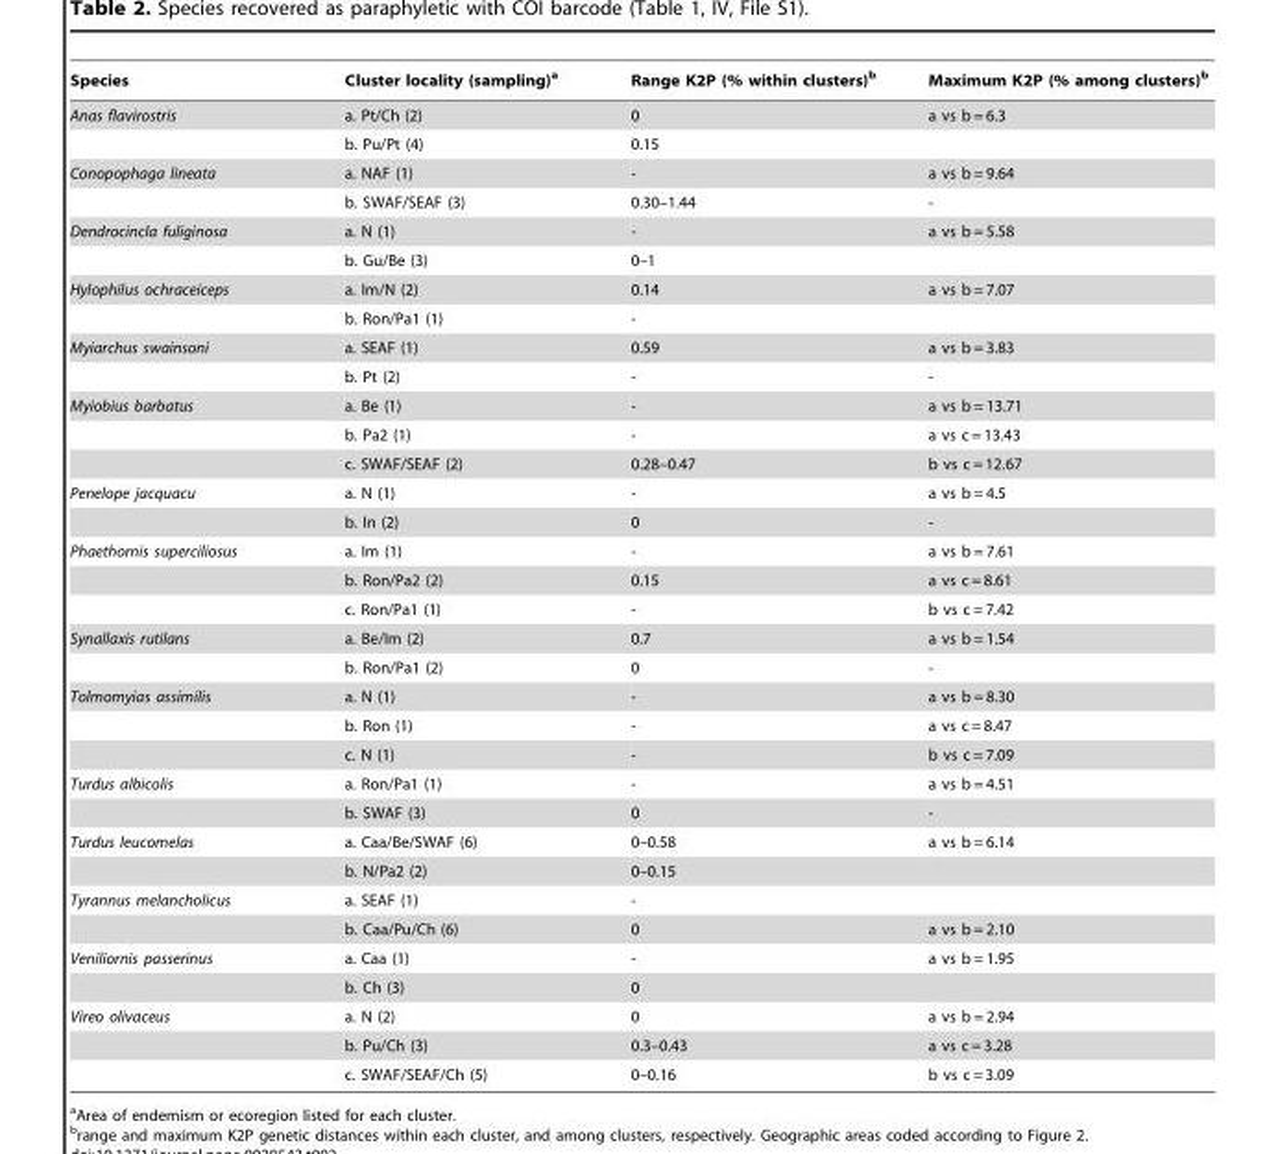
<table><thead><tr><td>Species</td><td>Cluster locality (sampling)<sup>a</sup></td><td>Range K2P (% within clusters)<sup>b</sup></td><td>Maximum K2P (% among clusters)<sup>b</sup></td></tr></thead><tbody><tr><td rowspan="2">Anas flavirostris</td><td>a. Pt/Ch (2)</td><td>0</td><td>a vs b = 6.3</td></tr><tr><td>b. Pu/Pt (4)</td><td>0.15</td><td></td></tr><tr><td rowspan="2">Conopophaga lineata</td><td>a. NAF (1)</td><td>-</td><td>a vs b = 9.64</td></tr><tr><td>b. SWAF/SEAF (3)</td><td>0.30–1.44</td><td>-</td></tr><tr><td rowspan="2">Dendrocincla fuliginosa</td><td>a. N (1)</td><td>-</td><td>a vs b = 5.58</td></tr><tr><td>b. Gu/Be (3)</td><td>0–1</td><td></td></tr><tr><td rowspan="2">Hylophilus ochraceiceps</td><td>a. Im/N (2)</td><td>0.14</td><td>a vs b = 7.07</td></tr><tr><td>b. Ron/Pa1 (1)</td><td>-</td><td></td></tr><tr><td rowspan="2">Myiarchus swainsoni</td><td>a. SEAF (1)</td><td>0.59</td><td>a vs b = 3.83</td></tr><tr><td>b. Pt (2)</td><td>-</td><td>-</td></tr><tr><td rowspan="3">Myiobius barbatus</td><td>a. Be (1)</td><td>-</td><td>a vs b = 13.71</td></tr><tr><td>b. Pa2 (1)</td><td>-</td><td>a vs c = 13.43</td></tr><tr><td>c. SWAF/SEAF (2)</td><td>0.28–0.47</td><td>b vs c = 12.67</td></tr><tr><td rowspan="2">Penelope jacquacu</td><td>a. N (1)</td><td>-</td><td>a vs b = 4.5</td></tr><tr><td>b. In (2)</td><td>0</td><td>-</td></tr><tr><td rowspan="3">Phaethornis superciliosus</td><td>a. Im (1)</td><td>-</td><td>a vs b = 7.61</td></tr><tr><td>b. Ron/Pa2 (2)</td><td>0.15</td><td>a vs c = 8.61</td></tr><tr><td>c. Ron/Pa1 (1)</td><td>-</td><td>b vs c = 7.42</td></tr><tr><td rowspan="2">Synallaxis rutilans</td><td>a. Be/Im (2)</td><td>0.7</td><td>a vs b = 1.54</td></tr><tr><td>b. Ron/Pa1 (2)</td><td>0</td><td>-</td></tr><tr><td rowspan="3">Tolmomyias assimilis</td><td>a. N (1)</td><td>-</td><td>a vs b = 8.30</td></tr><tr><td>b. Ron (1)</td><td>-</td><td>a vs c = 8.47</td></tr><tr><td>c. N (1)</td><td>-</td><td>b vs c = 7.09</td></tr><tr><td rowspan="2">Turdus albicolis</td><td>a. Ron/Pa1 (1)</td><td>-</td><td>a vs b = 4.51</td></tr><tr><td>b. SWAF (3)</td><td>0</td><td>-</td></tr><tr><td rowspan="2">Turdus leucomelas</td><td>a. Caa/Be/SWAF (6)</td><td>0–0.58</td><td>a vs b = 6.14</td></tr><tr><td>b. N/Pa2 (2)</td><td>0–0.15</td><td></td></tr><tr><td rowspan="2">Tyrannus melancholicus</td><td>a. SEAF (1)</td><td>-</td><td></td></tr><tr><td>b. Caa/Pu/Ch (6)</td><td>0</td><td>a vs b = 2.10</td></tr><tr><td rowspan="2">Veniliornis passerinus</td><td>a. Caa (1)</td><td>-</td><td>a vs b = 1.95</td></tr><tr><td>b. Ch (3)</td><td>0</td><td></td></tr><tr><td rowspan="3">Vireo olivaceus</td><td>a. N (2)</td><td>0</td><td>a vs b = 2.94</td></tr><tr><td>b. Pu/Ch (3)</td><td>0.3–0.43</td><td>a vs c = 3.28</td></tr><tr><td>c. SWAF/SEAF/Ch (5)</td><td>0–0.16</td><td>b vs c = 3.09</td></tr></tbody></table>